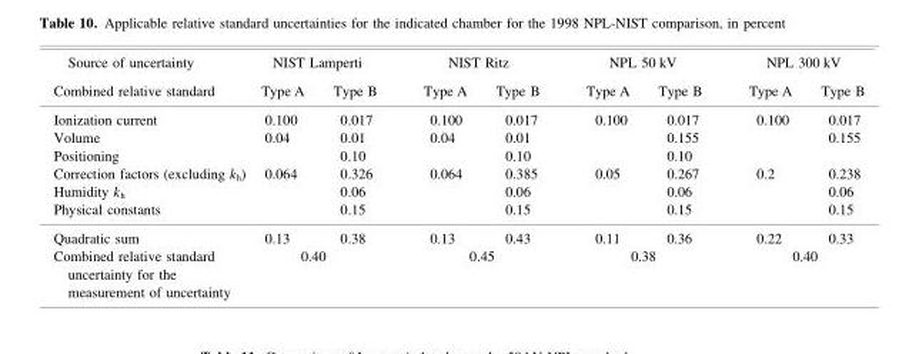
<table><thead><tr><td rowspan="2">Source of uncertainty Combined relative standard</td><td colspan="2">NIST Lamperti</td><td colspan="2">NIST Ritz</td><td colspan="2">NPL 50 kV</td><td colspan="2">NPL 300 kV</td></tr><tr><td>Type A</td><td>Type B</td><td>Type A</td><td>Type B</td><td>Type A</td><td>Type B</td><td>Type A</td><td>Type B</td></tr></thead><tbody><tr><td>Ionization current</td><td>0.100</td><td>0.017</td><td>0.100</td><td>0.017</td><td>0.100</td><td>0.017</td><td>0.100</td><td>0.017</td></tr><tr><td>Volume</td><td>0.04</td><td>0.01</td><td>0.04</td><td>0.01</td><td></td><td>0.155</td><td></td><td>0.155</td></tr><tr><td>Positioning</td><td></td><td>0.10</td><td></td><td>0.10</td><td></td><td>0.10</td><td></td><td></td></tr><tr><td>Correction factors (excluding k<sub>h</sub>)</td><td>0.064</td><td>0.326</td><td>0.064</td><td>0.385</td><td>0.05</td><td>0.267</td><td>0.2</td><td>0.238</td></tr><tr><td>Humidity k<sub>h</sub></td><td></td><td>0.06</td><td></td><td>0.06</td><td></td><td>0.06</td><td></td><td>0.06</td></tr><tr><td>Physical constants</td><td></td><td>0.15</td><td></td><td>0.15</td><td></td><td>0.15</td><td></td><td>0.15</td></tr><tr><td>Quadratic sum</td><td>0.13</td><td>0.38</td><td>0.13</td><td>0.43</td><td>0.11</td><td>0.36</td><td>0.22</td><td>0.33</td></tr><tr><td>Combined relative standard uncertainty for the measurement of uncertainty</td><td colspan="2">0.40</td><td colspan="2">0.45</td><td colspan="2">0.38</td><td colspan="2">0.40</td></tr></tbody></table>